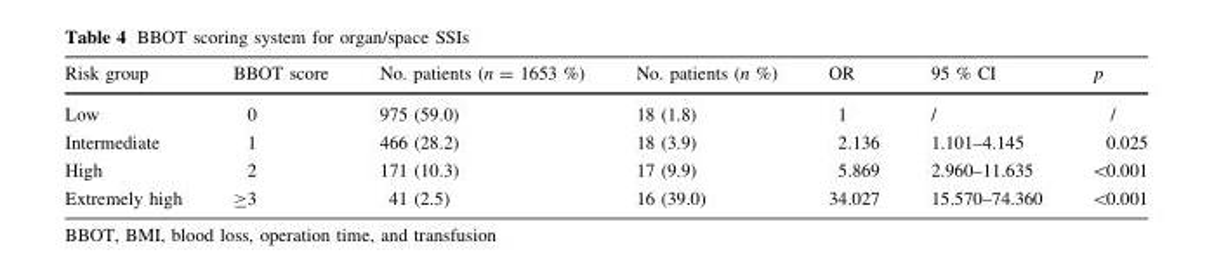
<table><thead><tr><td>Risk group</td><td>BBOT score</td><td>No. patients (n = 1653 %)</td><td>No. patients (n %)</td><td>OR</td><td>95 % CI</td><td>p</td></tr></thead><tbody><tr><td>Low</td><td>0</td><td>975 (59.0)</td><td>18 (1.8)</td><td>1</td><td>/</td><td>/</td></tr><tr><td>Intermediate</td><td>1</td><td>466 (28.2)</td><td>18 (3.9)</td><td>2.136</td><td>1.101–4.145</td><td>0.025</td></tr><tr><td>High</td><td>2</td><td>171 (10.3)</td><td>17 (9.9)</td><td>5.869</td><td>2.960–11.635</td><td>&lt;0.001</td></tr><tr><td>Extremely high</td><td>≥3</td><td>41 (2.5)</td><td>16 (39.0)</td><td>34.027</td><td>15.570–74.360</td><td>&lt;0.001</td></tr></tbody></table>